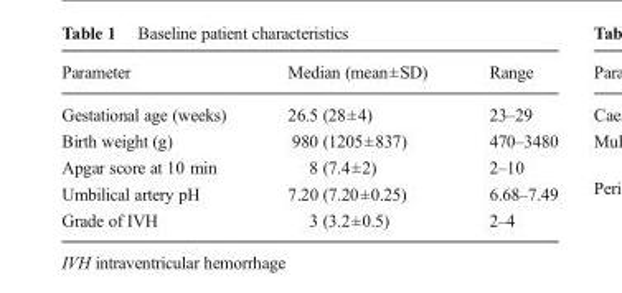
<table><thead><tr><td>Parameter</td><td>Median (mean±SD)</td><td>Range</td></tr></thead><tbody><tr><td>Gestational age (weeks)</td><td>26.5 (28±4)</td><td>23–29</td></tr><tr><td>Birth weight (g)</td><td>980 (1205±837)</td><td>470–3480</td></tr><tr><td>Apgar score at 10 min</td><td>8 (7.4±2)</td><td>2–10</td></tr><tr><td>Umbilical artery pH</td><td>7.20 (7.20±0.25)</td><td>6.68–7.49</td></tr><tr><td>Grade of IVH</td><td>3 (3.2±0.5)</td><td>2–4</td></tr></tbody></table>